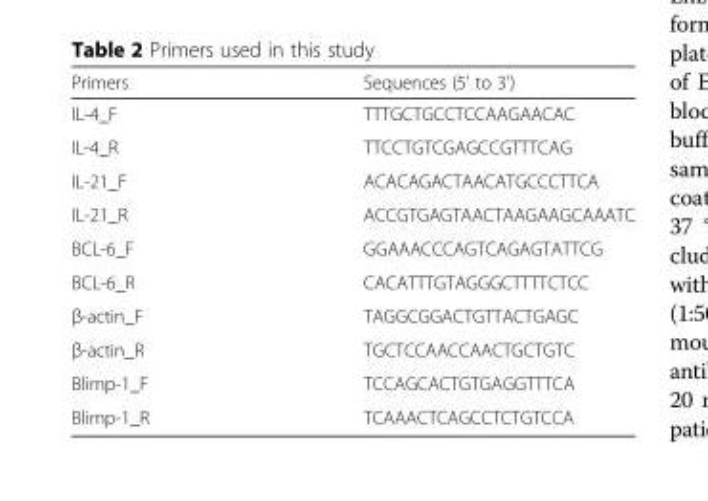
<table><thead><tr><td>Primers</td><td>Sequences (5&#x27; to 3&#x27;)</td></tr></thead><tbody><tr><td>IL-4_F</td><td>TTTGCTGCCTCCAAGAACAC</td></tr><tr><td>IL-4_R</td><td>TTCCTGTCGAGCCGTTTCAG</td></tr><tr><td>IL-21_F</td><td>ACACAGACTAACATGCCCTTCA</td></tr><tr><td>IL-21_R</td><td>ACCGTGAGTAACTAAGAAGCAAATC</td></tr><tr><td>BCL-6_F</td><td>GGAAACCCAGTCAGAGTATTCG</td></tr><tr><td>BCL-6_R</td><td>CACATTTGTAGGGCTTTTCTCC</td></tr><tr><td>β-actin_F</td><td>TAGGCGGACTGTTACTGAGC</td></tr><tr><td>β-actin_R</td><td>TGCTCCAACCAACTGCTGTC</td></tr><tr><td>Blimp-1_F</td><td>TCCAGCACTGTGAGGTTTCA</td></tr><tr><td>Blimp-1_R</td><td>TCAAACTCAGCCTCTGTCCA</td></tr></tbody></table>